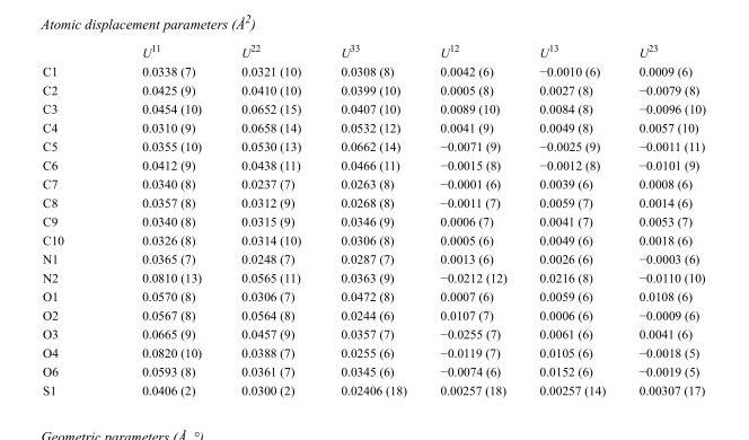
<table><thead><tr><td></td><td>U<sup>11</sup></td><td>U<sup>22</sup></td><td>U<sup>33</sup></td><td>U<sup>12</sup></td><td>U<sup>13</sup></td><td>U<sup>23</sup></td></tr></thead><tbody><tr><td>C1</td><td>0.0338 (7)</td><td>0.0321 (10)</td><td>0.0308 (8)</td><td>0.0042 (6)</td><td>−0.0010 (6)</td><td>0.0009 (6)</td></tr><tr><td>C2</td><td>0.0425 (9)</td><td>0.0410 (10)</td><td>0.0399 (10)</td><td>0.0005 (8)</td><td>0.0027 (8)</td><td>−0.0079 (8)</td></tr><tr><td>C3</td><td>0.0454 (10)</td><td>0.0652 (15)</td><td>0.0407 (10)</td><td>0.0089 (10)</td><td>0.0084 (8)</td><td>−0.0096 (10)</td></tr><tr><td>C4</td><td>0.0310 (9)</td><td>0.0658 (14)</td><td>0.0532 (12)</td><td>0.0041 (9)</td><td>0.0049 (8)</td><td>0.0057 (10)</td></tr><tr><td>C5</td><td>0.0355 (10)</td><td>0.0530 (13)</td><td>0.0662 (14)</td><td>−0.0071 (9)</td><td>−0.0025 (9)</td><td>−0.0011 (11)</td></tr><tr><td>C6</td><td>0.0412 (9)</td><td>0.0438 (11)</td><td>0.0466 (11)</td><td>−0.0015 (8)</td><td>−0.0012 (8)</td><td>−0.0101 (9)</td></tr><tr><td>C7</td><td>0.0340 (8)</td><td>0.0237 (7)</td><td>0.0263 (8)</td><td>−0.0001 (6)</td><td>0.0039 (6)</td><td>0.0008 (6)</td></tr><tr><td>C8</td><td>0.0357 (8)</td><td>0.0312 (9)</td><td>0.0268 (8)</td><td>−0.0011 (7)</td><td>0.0059 (7)</td><td>0.0014 (6)</td></tr><tr><td>C9</td><td>0.0340 (8)</td><td>0.0315 (9)</td><td>0.0346 (9)</td><td>0.0006 (7)</td><td>0.0041 (7)</td><td>0.0053 (7)</td></tr><tr><td>C10</td><td>0.0326 (8)</td><td>0.0314 (10)</td><td>0.0306 (8)</td><td>0.0005 (6)</td><td>0.0049 (6)</td><td>0.0018 (6)</td></tr><tr><td>N1</td><td>0.0365 (7)</td><td>0.0248 (7)</td><td>0.0287 (7)</td><td>0.0013 (6)</td><td>0.0026 (6)</td><td>−0.0003 (6)</td></tr><tr><td>N2</td><td>0.0810 (13)</td><td>0.0565 (11)</td><td>0.0363 (9)</td><td>−0.0212 (12)</td><td>0.0216 (8)</td><td>−0.0110 (10)</td></tr><tr><td>O1</td><td>0.0570 (8)</td><td>0.0306 (7)</td><td>0.0472 (8)</td><td>0.0007 (6)</td><td>0.0059 (6)</td><td>0.0108 (6)</td></tr><tr><td>O2</td><td>0.0567 (8)</td><td>0.0564 (8)</td><td>0.0244 (6)</td><td>0.0107 (7)</td><td>0.0006 (6)</td><td>−0.0009 (6)</td></tr><tr><td>O3</td><td>0.0665 (9)</td><td>0.0457 (9)</td><td>0.0357 (7)</td><td>−0.0255 (7)</td><td>0.0061 (6)</td><td>0.0041 (6)</td></tr><tr><td>O4</td><td>0.0820 (10)</td><td>0.0388 (7)</td><td>0.0255 (6)</td><td>−0.0119 (7)</td><td>0.0105 (6)</td><td>−0.0018 (5)</td></tr><tr><td>O6</td><td>0.0593 (8)</td><td>0.0361 (7)</td><td>0.0345 (6)</td><td>−0.0074 (6)</td><td>0.0152 (6)</td><td>−0.0019 (5)</td></tr><tr><td>S1</td><td>0.0406 (2)</td><td>0.0300 (2)</td><td>0.02406 (18)</td><td>0.00257 (18)</td><td>0.00257 (14)</td><td>0.00307 (17)</td></tr></tbody></table>